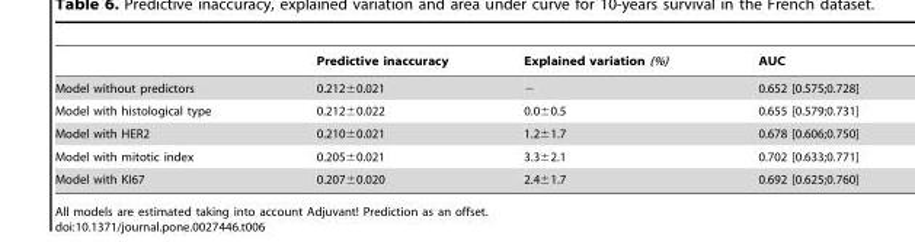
<table><thead><tr><td></td><td>Predictive inaccuracy</td><td>Explained variation (%)</td><td>AUC</td></tr></thead><tbody><tr><td>Model without predictors</td><td>0.212±0.021</td><td>−</td><td>0.652 [0.575;0.728]</td></tr><tr><td>Model with histological type</td><td>0.212±0.022</td><td>0.0±0.5</td><td>0.655 [0.579;0.731]</td></tr><tr><td>Model with HER2</td><td>0.210±0.021</td><td>1.2±1.7</td><td>0.678 [0.606;0.750]</td></tr><tr><td>Model with mitotic index</td><td>0.205±0.021</td><td>3.3±2.1</td><td>0.702 [0.633;0.771]</td></tr><tr><td>Model with KI67</td><td>0.207±0.020</td><td>2.4±1.7</td><td>0.692 [0.625;0.760]</td></tr></tbody></table>